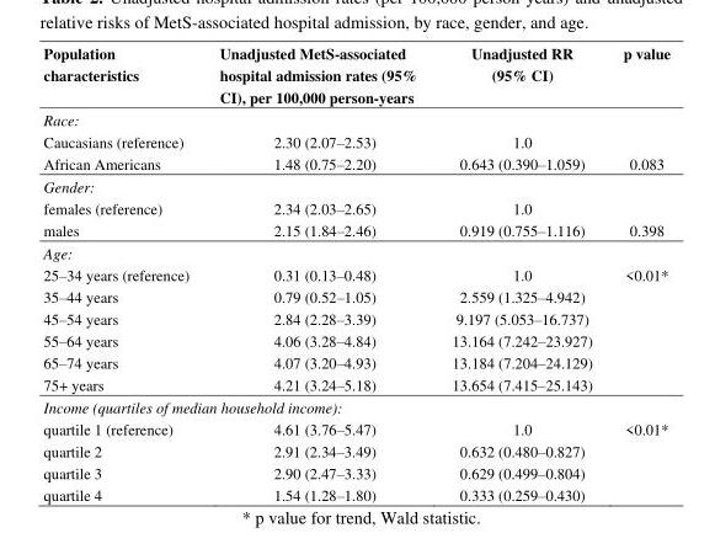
<table><thead><tr><td>Population characteristics</td><td>Unadjusted MetS-associated hospital admission rates (95% CI), per 100,000 person-years</td><td>Unadjusted RR (95% CI)</td><td>p value</td></tr></thead><tbody><tr><td colspan="4">Race:</td></tr><tr><td>Caucasians (reference)</td><td>2.30 (2.07–2.53)</td><td>1.0</td><td></td></tr><tr><td>African Americans</td><td>1.48 (0.75–2.20)</td><td>0.643 (0.390–1.059)</td><td>0.083</td></tr><tr><td colspan="4">Gender:</td></tr><tr><td>females (reference)</td><td>2.34 (2.03–2.65)</td><td>1.0</td><td></td></tr><tr><td>males</td><td>2.15 (1.84–2.46)</td><td>0.919 (0.755–1.116)</td><td>0.398</td></tr><tr><td colspan="4">Age:</td></tr><tr><td>25–34 years (reference)</td><td>0.31 (0.13–0.48)</td><td>1.0</td><td>&lt;0.01*</td></tr><tr><td>35–44 years</td><td>0.79 (0.52–1.05)</td><td>2.559 (1.325–4.942)</td><td></td></tr><tr><td>45–54 years</td><td>2.84 (2.28–3.39)</td><td>9.197 (5.053–16.737)</td><td></td></tr><tr><td>55–64 years</td><td>4.06 (3.28–4.84)</td><td>13.164 (7.242–23.927)</td><td></td></tr><tr><td>65–74 years</td><td>4.07 (3.20–4.93)</td><td>13.184 (7.204–24.129)</td><td></td></tr><tr><td>75+ years</td><td>4.21 (3.24–5.18)</td><td>13.654 (7.415–25.143)</td><td></td></tr><tr><td colspan="4">Income (quartiles of median household income):</td></tr><tr><td>quartile 1 (reference)</td><td>4.61 (3.76–5.47)</td><td>1.0</td><td>&lt;0.01*</td></tr><tr><td>quartile 2</td><td>2.91 (2.34–3.49)</td><td>0.632 (0.480–0.827)</td><td></td></tr><tr><td>quartile 3</td><td>2.90 (2.47–3.33)</td><td>0.629 (0.499–0.804)</td><td></td></tr><tr><td>quartile 4</td><td>1.54 (1.28–1.80)</td><td>0.333 (0.259–0.430)</td><td></td></tr></tbody></table>